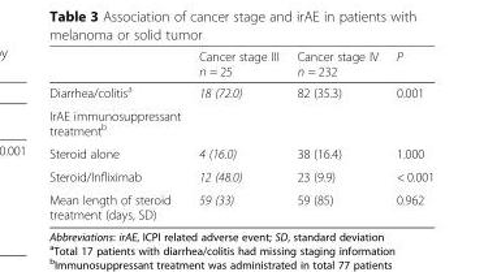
<table><thead><tr><td></td><td>Cancer stage III n = 25</td><td>Cancer stage IV n = 232</td><td>P</td></tr></thead><tbody><tr><td>Diarrhea/colitis<sup>a</sup></td><td>18 (72.0)</td><td>82 (35.3)</td><td>0.001</td></tr><tr><td colspan="4">IrAE immunosuppressant treatment<sup>b</sup></td></tr><tr><td>Steroid alone</td><td>4 (16.0)</td><td>38 (16.4)</td><td>1.000</td></tr><tr><td>Steroid/Infliximab</td><td>12 (48.0)</td><td>23 (9.9)</td><td>&lt; 0.001</td></tr><tr><td>Mean length of steroid treatment (days, SD)</td><td>59 (33)</td><td>59 (85)</td><td>0.962</td></tr></tbody></table>